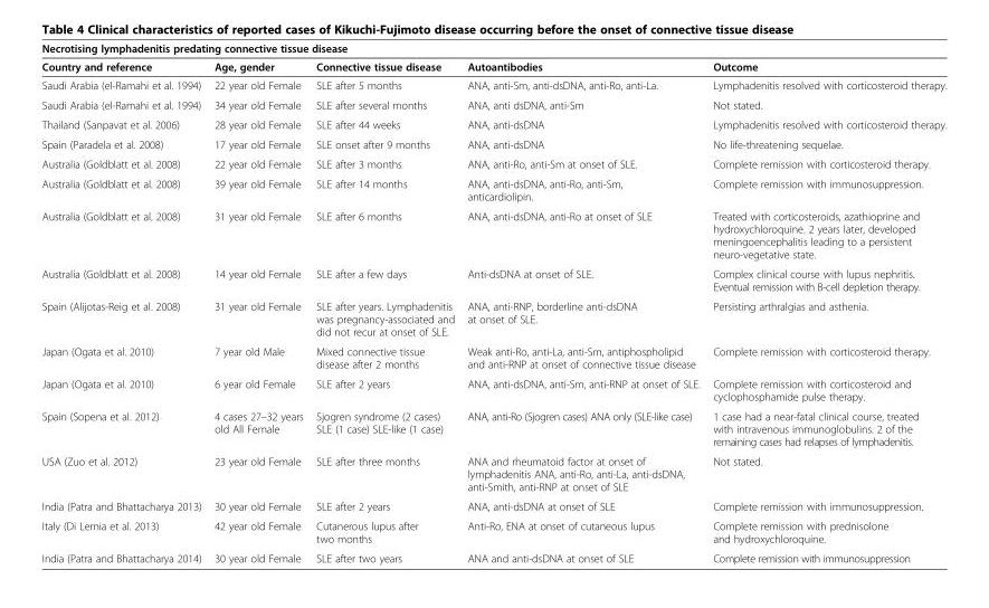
<table><thead><tr><td colspan="5">Necrotising lymphadenitis predating connective tissue disease</td></tr><tr><td>Country and reference</td><td>Age, gender</td><td>Connective tissue disease</td><td>Autoantibodies</td><td>Outcome</td></tr></thead><tbody><tr><td>Saudi Arabia (el-Ramahi et al. 1994)</td><td>22 year old Female</td><td>SLE after 5 months</td><td>ANA, anti-Sm, anti-dsDNA, anti-Ro, anti-La.</td><td>Lymphadenitis resolved with corticosteroid therapy.</td></tr><tr><td>Saudi Arabia (el-Ramahi et al. 1994)</td><td>34 year old Female</td><td>SLE after several months</td><td>ANA, anti dsDNA, anti-Sm</td><td>Not stated.</td></tr><tr><td>Thailand (Sanpavat et al. 2006)</td><td>28 year old Female</td><td>SLE after 44 weeks</td><td>ANA, anti-dsDNA</td><td>Lymphadenitis resolved with corticosteroid therapy.</td></tr><tr><td>Spain (Paradela et al. 2008)</td><td>17 year old Female</td><td>SLE onset after 9 months</td><td>ANA, anti-dsDNA</td><td>No life-threatening sequelae.</td></tr><tr><td>Australia (Goldblatt et al. 2008)</td><td>22 year old Female</td><td>SLE after 3 months</td><td>ANA, anti-Ro, anti-Sm at onset of SLE.</td><td>Complete remission with corticosteroid therapy.</td></tr><tr><td>Australia (Goldblatt et al. 2008)</td><td>39 year old Female</td><td>SLE after 14 months</td><td>ANA, anti-dsDNA, anti-Ro, anti-Sm, anticardiolipin.</td><td>Complete remission with immunosuppression.</td></tr><tr><td>Australia (Goldblatt et al. 2008)</td><td>31 year old Female</td><td>SLE after 6 months</td><td>ANA, anti-dsDNA, anti-Ro at onset of SLE</td><td>Treated with corticosteroids, azathioprine and hydroxychloroquine. 2 years later, developed meningoencephalitis leading to a persistent neuro-vegetative state.</td></tr><tr><td>Australia (Goldblatt et al. 2008)</td><td>14 year old Female</td><td>SLE after a few days</td><td>Anti-dsDNA at onset of SLE.</td><td>Complex clinical course with lupus nephritis. Eventual remission with B-cell depletion therapy.</td></tr><tr><td>Spain (Alijotas-Reig et al. 2008)</td><td>31 year old Female</td><td>SLE after years. Lymphadenitis was pregnancy-associated and did not recur at onset of SLE.</td><td>ANA, anti-RNP, borderline anti-dsDNA at onset of SLE.</td><td>Persisting arthralgias and asthenia.</td></tr><tr><td>Japan (Ogata et al. 2010)</td><td>7 year old Male</td><td>Mixed connective tissue disease after 2 months</td><td>Weak anti-Ro, anti-La, anti-Sm, antiphospholipid and anti-RNP at onset of connective tissue disease</td><td>Complete remission with corticosteroid therapy.</td></tr><tr><td>Japan (Ogata et al. 2010)</td><td>6 year old Female</td><td>SLE after 2 years</td><td>ANA, anti-dsDNA, anti-Sm, anti-RNP at onset of SLE.</td><td>Complete remission with corticosteroid and cyclophosphamide pulse therapy.</td></tr><tr><td>Spain (Sopena et al. 2012)</td><td>4 cases 27–32 years old All Female</td><td>Sjogren syndrome (2 cases) SLE (1 case) SLE-like (1 case)</td><td>ANA, anti-Ro (Sjogren cases) ANA only (SLE-like case)</td><td>1 case had a near-fatal clinical course, treated with intravenous immunoglobulins. 2 of the remaining cases had relapses of lymphadenitis.</td></tr><tr><td>USA (Zuo et al. 2012)</td><td>23 year old Female</td><td>SLE after three months</td><td>ANA and rheumatoid factor at onset of lymphadenitis ANA, anti-Ro, anti-La, anti-dsDNA, anti-Smith, anti-RNP at onset of SLE</td><td>Not stated.</td></tr><tr><td>India (Patra and Bhattacharya 2013)</td><td>30 year old Female</td><td>SLE after 2 years</td><td>ANA, anti-dsDNA at onset of SLE</td><td>Complete remission with immunosuppression.</td></tr><tr><td>Italy (Di Lernia et al. 2013)</td><td>42 year old Female</td><td>Cutanerous lupus after two months</td><td>Anti-Ro, ENA at onset of cutaneous lupus</td><td>Complete remission with prednisolone and hydroxychloroquine.</td></tr><tr><td>India (Patra and Bhattacharya 2014)</td><td>30 year old Female</td><td>SLE after two years</td><td>ANA and anti-dsDNA at onset of SLE</td><td>Complete remission with immunosuppression</td></tr></tbody></table>